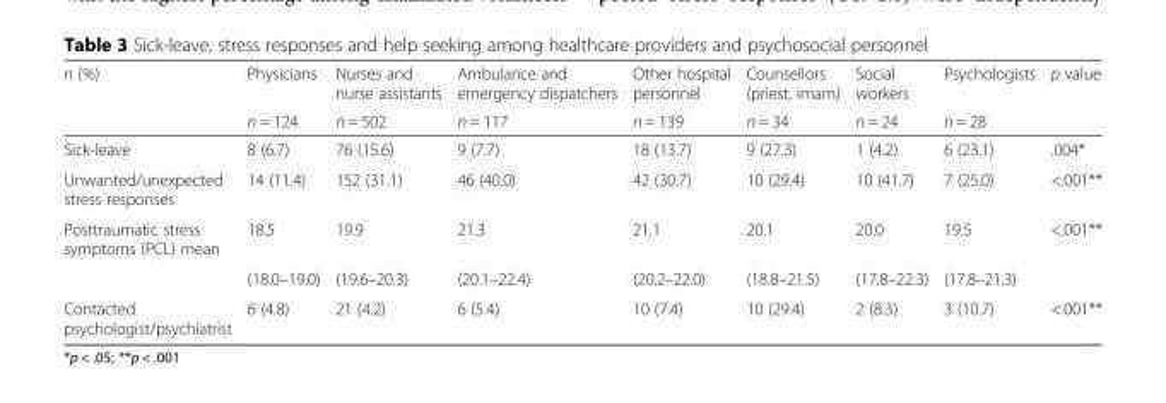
<table><thead><tr><td rowspan="2">n (%)</td><td rowspan="2">Physicians n = 124</td><td rowspan="2">Nurses and nurse assistants n = 502</td><td rowspan="2">Ambulance and emergency dispatchers n = 117</td><td rowspan="2">Other hospital personnel n = 139</td><td rowspan="2">Counsellors (priest, imam) n = 34</td><td rowspan="2">Social workers n = 24</td><td rowspan="2">Psychologists n = 28</td><td rowspan="2">p value</td></tr><tr></tr></thead><tbody><tr><td>Sick-leave</td><td>8 (6.7)</td><td>76 (15.6)</td><td>9 (7.7)</td><td>18 (13.7)</td><td>9 (27.3)</td><td>1 (4.2)</td><td>6 (23.1)</td><td>.004*</td></tr><tr><td>Unwanted/unexpected stress responses</td><td>14 (11.4)</td><td>152 (31.1)</td><td>46 (40.0)</td><td>42 (30.7)</td><td>10 (29.4)</td><td>10 (41.7)</td><td>7 (25.0)</td><td>&lt;.001**</td></tr><tr><td rowspan="2">Posttraumatic stress symptoms (PCL) mean</td><td>18.5</td><td>19.9</td><td>21.3</td><td>21.1</td><td>20.1</td><td>20.0</td><td>19.5</td><td>&lt;.001**</td></tr><tr><td>(18.0–19.0)</td><td>(19.6–20.3)</td><td>(20.1–22.4)</td><td>(20.2–22.0)</td><td>(18.8–21.5)</td><td>(17.8–22.3)</td><td>(17.8–21.3)</td><td></td></tr><tr><td>Contacted psychologist/psychiatrist</td><td>6 (4.8)</td><td>21 (4.2)</td><td>6 (5.4)</td><td>10 (7.4)</td><td>10 (29.4)</td><td>2 (8.3)</td><td>3 (10.7)</td><td>&lt;.001**</td></tr></tbody></table>